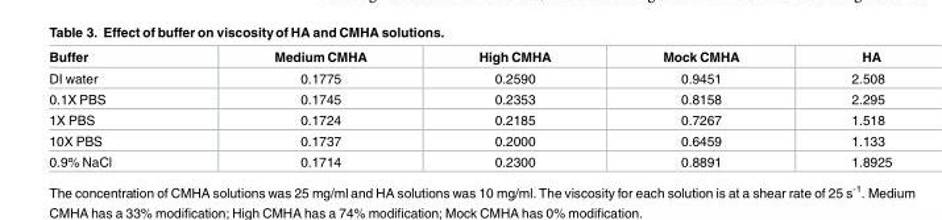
<table><thead><tr><td>Buffer</td><td>Medium CMHA</td><td>High CMHA</td><td>Mock CMHA</td><td>HA</td></tr></thead><tbody><tr><td>DI water</td><td>0.1775</td><td>0.2590</td><td>0.9451</td><td>2.508</td></tr><tr><td>0.1X PBS</td><td>0.1745</td><td>0.2353</td><td>0.8158</td><td>2.295</td></tr><tr><td>1X PBS</td><td>0.1724</td><td>0.2185</td><td>0.7267</td><td>1.518</td></tr><tr><td>10X PBS</td><td>0.1737</td><td>0.2000</td><td>0.6459</td><td>1.133</td></tr><tr><td>0.9% NaCl</td><td>0.1714</td><td>0.2300</td><td>0.8891</td><td>1.8925</td></tr></tbody></table>